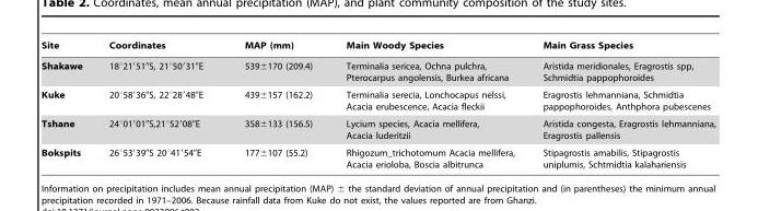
<table><thead><tr><td>Site</td><td>Coordinates</td><td>MAP (mm)</td><td>Main Woody Species</td><td>Main Grass Species</td></tr></thead><tbody><tr><td>Shakawe</td><td>18°21′51″S, 21°50′31″E</td><td>539±170 (209.4)</td><td>Terminalia sericea, Ochna pulchra, Pterocarpus angolensis, Burkea africana</td><td>Aristida meridionales, Eragrostis spp, Schmidtia pappophoroides</td></tr><tr><td>Kuke</td><td>20°58′36″S, 22°28′48″E</td><td>439±157 (162.2)</td><td>Terminalia serecia, Lonchocapus nelssi, Acacia erubescence, Acacia fleckii</td><td>Eragrostis lehmanniana, Schmidtia pappophoroides, Anthphora pubescenes</td></tr><tr><td>Tshane</td><td>24°01′01″S,21°52′08″E</td><td>358±133 (156.5)</td><td>Lycium species, Acacia mellifera, Acacia luderitzii</td><td>Aristida congesta, Eragrostis lehmanniana, Eragrostis pallensis</td></tr><tr><td>Bokspits</td><td>26°53′39″S 20°41′54″E</td><td>177±107 (55.2)</td><td>Rhigozum_trichotomum Acacia mellifera, Acacia erioloba, Boscia albitrunca</td><td>Stipagrostis amabilis, Stipagrostis uniplumis, Schtmidtia kalahariensis</td></tr></tbody></table>